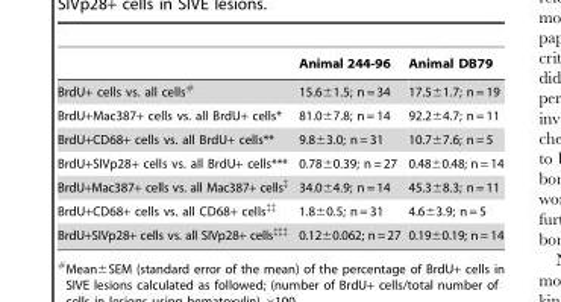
<table><thead><tr><td></td><td>Animal 244-96</td><td>Animal DB79</td></tr></thead><tbody><tr><td>BrdU+ cells vs. all cells#</td><td>15.6±1.5; n = 34</td><td>17.5±1.7; n = 19</td></tr><tr><td>BrdU+Mac387+ cells vs. all BrdU+ cells*</td><td>81.0±7.8; n = 14</td><td>92.2±4.7; n = 11</td></tr><tr><td>BrdU+CD68+ cells vs. all BrdU+ cells**</td><td>9.8±3.0; n = 31</td><td>10.7±7.6; n = 5</td></tr><tr><td>BrdU+SIVp28+ cells vs. all BrdU+ cells***</td><td>0.78±0.39; n = 27</td><td>0.48±0.48; n = 14</td></tr><tr><td>BrdU+Mac387+ cells vs. all Mac387+ cells‡</td><td>34.0±4.9; n = 14</td><td>45.3±8.3; n = 11</td></tr><tr><td>BrdU+CD68+ cells vs. all CD68+ cells‡‡</td><td>1.8±0.5; n = 31</td><td>4.6±3.9; n = 5</td></tr><tr><td>BrdU+SIVp28+ cells vs. all SIVp28+ cells‡‡‡</td><td>0.12±0.062; n= 27</td><td>0.19±0.19; n = 14</td></tr></tbody></table>